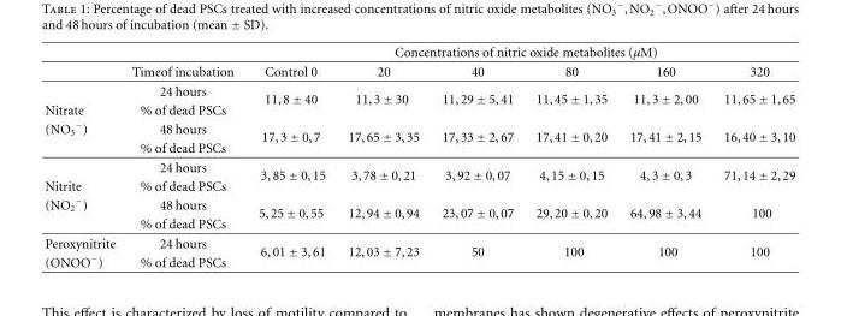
<table><thead><tr><td rowspan="2"></td><td rowspan="2">Timeof incubation</td><td colspan="6">Concentrations of nitric oxide metabolites (μM)</td></tr><tr><td>Control 0</td><td>20</td><td>40</td><td>80</td><td>160</td><td>320</td></tr></thead><tbody><tr><td></td><td>24 hours</td><td rowspan="2">11,8 ± 40</td><td rowspan="2">11,3 ± 30</td><td rowspan="2">11,29 ± 5,41</td><td rowspan="2">11,45 ± 1,35</td><td rowspan="2">11,3 ± 2,00</td><td rowspan="2">11,65 ± 1,65</td></tr><tr><td>Nitrate</td><td>% of dead PSCs</td></tr><tr><td rowspan="3">(NO<sub>3</sub> <sup>−</sup>)</td><td>48 hours</td><td rowspan="2">17,3 ± 0,7</td><td rowspan="2">17,65 ± 3,35</td><td rowspan="2">17,33 ± 2,67</td><td rowspan="2">17,41 ± 0,20</td><td rowspan="2">17,41 ± 2,15</td><td rowspan="2">16,40 ± 3,10</td></tr><tr><td>% of dead PSCs</td></tr><tr><td>24 hours</td><td rowspan="2">3,85 ± 0,15</td><td rowspan="2">3,78 ± 0,21</td><td rowspan="2">3,92 ± 0,07</td><td rowspan="2">4,15 ± 0,15</td><td rowspan="2">4,3 ± 0,3</td><td rowspan="2">71,14 ± 2,29</td></tr><tr><td>Nitrite</td><td>% of dead PSCs</td></tr><tr><td rowspan="2">(NO<sub>2</sub> <sup>−</sup>)</td><td>48 hours</td><td rowspan="2">5,25 ± 0,55</td><td rowspan="2">12,94 ± 0,94</td><td rowspan="2">23,07 ± 0,07</td><td rowspan="2">29,20 ± 0,20</td><td rowspan="2">64,98 ± 3,44</td><td rowspan="2">100</td></tr><tr><td>% of dead PSCs</td></tr><tr><td>Peroxynitrite</td><td>24 hours</td><td rowspan="2">6,01 ± 3,61</td><td rowspan="2">12,03 ± 7,23</td><td rowspan="2">50</td><td rowspan="2">100</td><td rowspan="2">100</td><td rowspan="2">100</td></tr><tr><td>(ONOO<sup>−</sup>)</td><td>% of dead PSCs</td></tr></tbody></table>